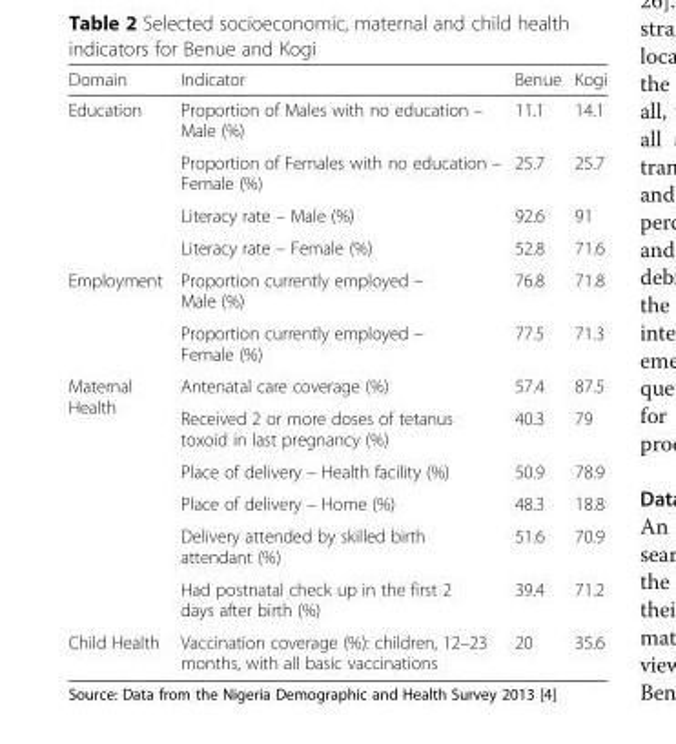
<table><thead><tr><td>Domain</td><td>Indicator</td><td>Benue</td><td>Kogi</td></tr></thead><tbody><tr><td rowspan="4">Education</td><td>Proportion of Males with no education – Male (%)</td><td>11.1</td><td>14.1</td></tr><tr><td>Proportion of Females with no education – Female (%)</td><td>25.7</td><td>25.7</td></tr><tr><td>Literacy rate – Male (%)</td><td>92.6</td><td>91</td></tr><tr><td>Literacy rate – Female (%)</td><td>52.8</td><td>71.6</td></tr><tr><td rowspan="2">Employment</td><td>Proportion currently employed – Male (%)</td><td>76.8</td><td>71.8</td></tr><tr><td>Proportion currently employed – Female (%)</td><td>77.5</td><td>71.3</td></tr><tr><td rowspan="6">Maternal Health</td><td>Antenatal care coverage (%)</td><td>57.4</td><td>87.5</td></tr><tr><td>Received 2 or more doses of tetanus toxoid in last pregnancy (%)</td><td>40.3</td><td>79</td></tr><tr><td>Place of delivery – Health facility (%)</td><td>50.9</td><td>78.9</td></tr><tr><td>Place of delivery – Home (%)</td><td>48.3</td><td>18.8</td></tr><tr><td>Delivery attended by skilled birth attendant (%)</td><td>51.6</td><td>70.9</td></tr><tr><td>Had postnatal check up in the first 2 days after birth (%)</td><td>39.4</td><td>71.2</td></tr><tr><td>Child Health</td><td>Vaccination coverage (%): children, 12–23 months, with all basic vaccinations</td><td>20</td><td>35.6</td></tr></tbody></table>